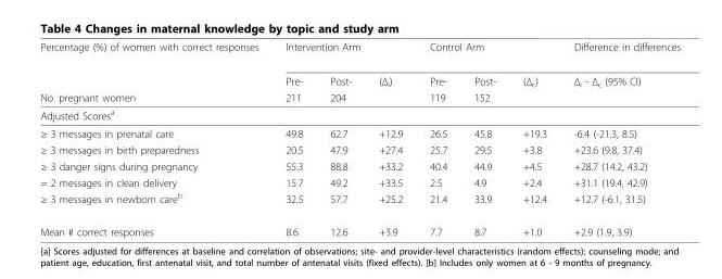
<table><thead><tr><td rowspan="3">Percentage (%) of women with correct responses No. pregnant women</td><td colspan="3">Intervention Arm</td><td colspan="3">Control Arm</td><td rowspan="3">Difference in differences Δi - Δc (95% CI)</td></tr><tr><td rowspan="2">Pre- 211</td><td rowspan="2">Post- 204</td><td rowspan="2">(Δi)</td><td rowspan="2">Pre- 119</td><td rowspan="2">Post- 152</td><td rowspan="2">(Δc)</td></tr><tr></tr></thead><tbody><tr><td colspan="8">Adjusted Scoresa</td></tr><tr><td>≥ 3 messages in prenatal care</td><td>49.8</td><td>62.7</td><td>+12.9</td><td>26.5</td><td>45.8</td><td>+19.3</td><td>-6.4 (-21.3, 8.5)</td></tr><tr><td>≥ 3 messages in birth preparedness</td><td>20.5</td><td>47.9</td><td>+27.4</td><td>25.7</td><td>29.5</td><td>+3.8</td><td>+23.6 (9.8, 37.4)</td></tr><tr><td>≥ 3 danger signs during pregnancy</td><td>55.3</td><td>88.8</td><td>+33.2</td><td>40.4</td><td>44.9</td><td>+4.5</td><td>+28.7 (14.2, 43.2)</td></tr><tr><td>= 2 messages in clean delivery</td><td>15.7</td><td>49.2</td><td>+33.5</td><td>2.5</td><td>4.9</td><td>+2.4</td><td>+31.1 (19.4, 42.9)</td></tr><tr><td>≥ 3 messages in newborn care<sup>b</sup></td><td>32.5</td><td>57.7</td><td>+25.2</td><td>21.4</td><td>33.9</td><td>+12.4</td><td>+12.7 (-6.1, 31.5)</td></tr><tr><td>Mean # correct responses</td><td>8.6</td><td>12.6</td><td>+3.9</td><td>7.7</td><td>8.7</td><td>+1.0</td><td>+2.9 (1.9, 3.9)</td></tr></tbody></table>